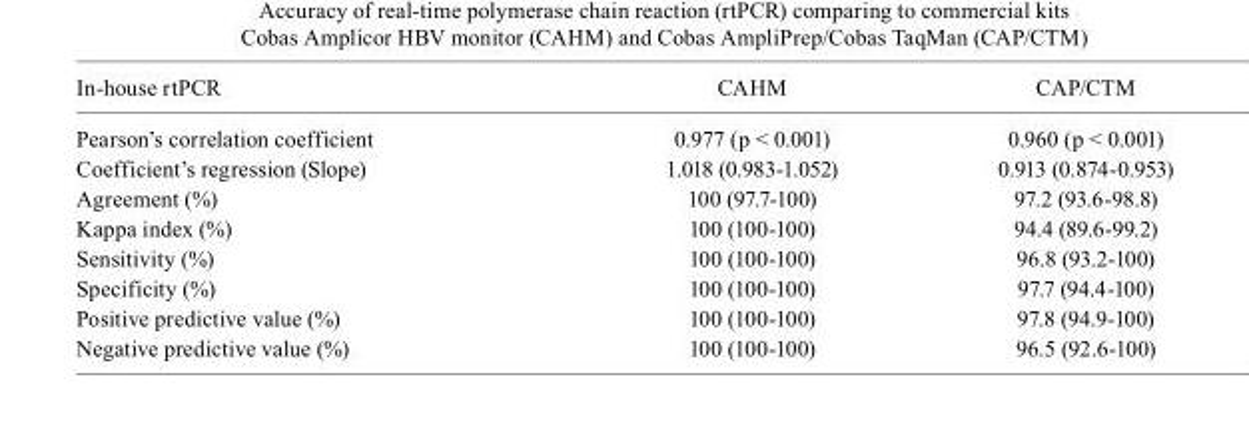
<table><thead><tr><td>In-house rtPCR</td><td>CAHM</td><td>CAP/CTM</td></tr></thead><tbody><tr><td>Pearson’s correlation coefficient</td><td>0.977 (p &lt; 0.001)</td><td>0.960 (p &lt; 0.001)</td></tr><tr><td>Coefficient’s regression (Slope)</td><td>1.018 (0.983-1.052)</td><td>0.913 (0.874-0.953)</td></tr><tr><td>Agreement (%)</td><td>100 (97.7-100)</td><td>97.2 (93.6-98.8)</td></tr><tr><td>Kappa index (%)</td><td>100 (100-100)</td><td>94.4 (89.6-99.2)</td></tr><tr><td>Sensitivity (%)</td><td>100 (100-100)</td><td>96.8 (93.2-100)</td></tr><tr><td>Specificity (%)</td><td>100 (100-100)</td><td>97.7 (94.4-100)</td></tr><tr><td>Positive predictive value (%)</td><td>100 (100-100)</td><td>97.8 (94.9-100)</td></tr><tr><td>Negative predictive value (%)</td><td>100 (100-100)</td><td>96.5 (92.6-100)</td></tr></tbody></table>